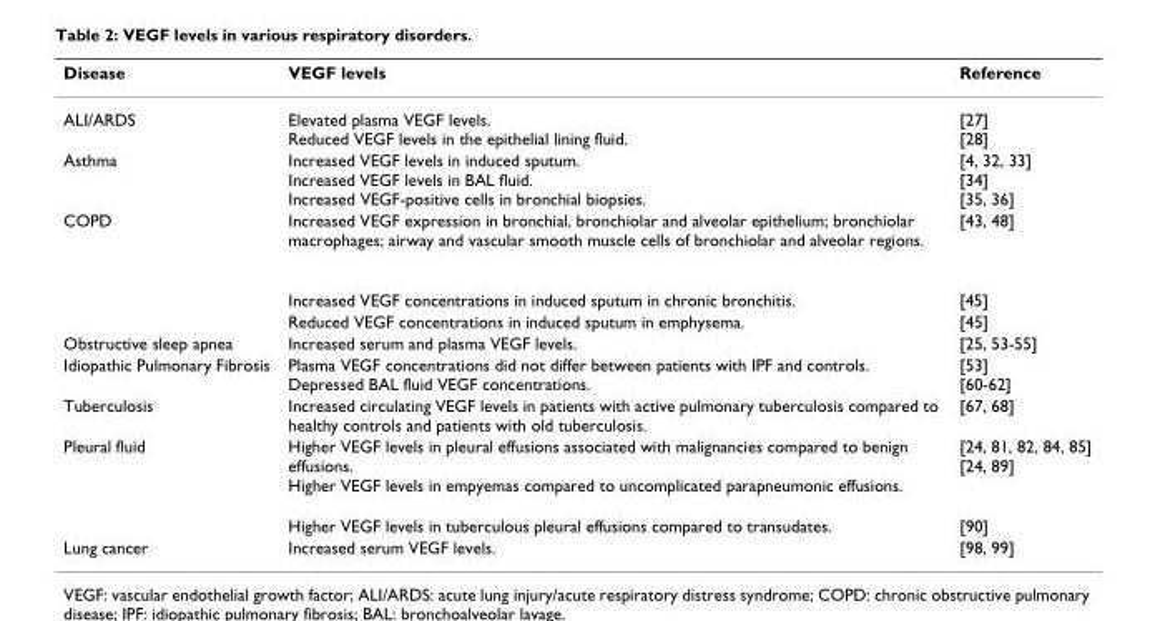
<table><thead><tr><td>Disease</td><td>VEGF levels</td><td>Reference</td></tr></thead><tbody><tr><td>ALI/ARDS</td><td>Elevated plasma VEGF levels. Reduced VEGF levels in the epithelial lining fluid.</td><td>[27] [28]</td></tr><tr><td>Asthma</td><td>Increased VEGF levels in induced sputum. Increased VEGF levels in BAL fluid. Increased VEGF-positive cells in bronchial biopsies.</td><td>[4, 32, 33] [34] [35, 36]</td></tr><tr><td rowspan="3">COPD</td><td>Increased VEGF expression in bronchial, bronchiolar and alveolar epithelium; bronchiolar macrophages; airway and vascular smooth muscle cells of bronchiolar and alveolar regions.</td><td>[43, 48]</td></tr><tr><td>Increased VEGF concentrations in induced sputum in chronic bronchitis.</td><td>[45]</td></tr><tr><td>Reduced VEGF concentrations in induced sputum in emphysema.</td><td>[45]</td></tr><tr><td>Obstructive sleep apnea</td><td>Increased serum and plasma VEGF levels.</td><td>[25, 53-55]</td></tr><tr><td>Idiopathic Pulmonary Fibrosis</td><td>Plasma VEGF concentrations did not differ between patients with IPF and controls. Depressed BAL fluid VEGF concentrations.</td><td>[53] [60-62]</td></tr><tr><td>Tuberculosis</td><td>Increased circulating VEGF levels in patients with active pulmonary tuberculosis compared to healthy controls and patients with old tuberculosis.</td><td>[67, 68]</td></tr><tr><td rowspan="2">Pleural fluid</td><td>Higher VEGF levels in pleural effusions associated with malignancies compared to benign effusions. Higher VEGF levels in empyemas compared to uncomplicated parapneumonic effusions.</td><td>[24, 81, 82, 84, 85] [24, 89]</td></tr><tr><td>Higher VEGF levels in tuberculous pleural effusions compared to transudates.</td><td>[90]</td></tr><tr><td>Lung cancer</td><td>Increased serum VEGF levels.</td><td>[98, 99]</td></tr></tbody></table>